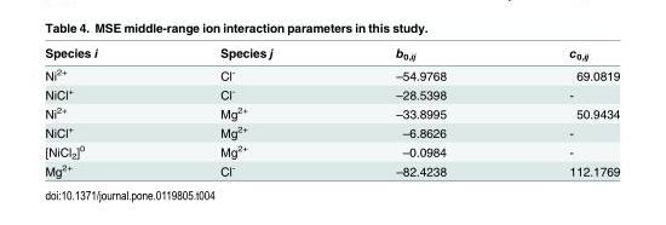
<table><thead><tr><td>Species i</td><td>Species j</td><td>b<sub>0,ij</sub></td><td>c<sub>0,ij</sub></td></tr></thead><tbody><tr><td>Ni<sup>2+</sup></td><td>Cl<sup>-</sup></td><td>–54.9768</td><td>69.0819</td></tr><tr><td>NiCl<sup>+</sup></td><td>Cl<sup>-</sup></td><td>–28.5398</td><td>-</td></tr><tr><td>Ni<sup>2+</sup></td><td>Mg<sup>2+</sup></td><td>–33.8995</td><td>50.9434</td></tr><tr><td>NiCl<sup>+</sup></td><td>Mg<sup>2+</sup></td><td>–6.8626</td><td>-</td></tr><tr><td>[NiCl<sub>2</sub>]<sup>0</sup></td><td>Mg<sup>2+</sup></td><td>–0.0984</td><td>-</td></tr><tr><td>Mg<sup>2+</sup></td><td>Cl<sup>-</sup></td><td>–82.4238</td><td>112.1769</td></tr></tbody></table>